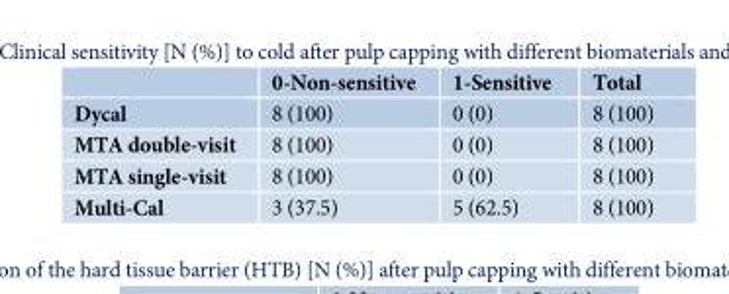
<table><thead><tr><td></td><td>0-Non-sensitive</td><td>1-Sensitive</td><td>Total</td></tr></thead><tbody><tr><td>Dycal</td><td>8 (100)</td><td>0 (0)</td><td>8 (100)</td></tr><tr><td>MTA double-visit</td><td>8 (100)</td><td>0 (0)</td><td>8 (100)</td></tr><tr><td>MTA single-visit</td><td>8 (100)</td><td>0 (0)</td><td>8 (100)</td></tr><tr><td>Multi-Cal</td><td>3 (37.5)</td><td>5 (62.5)</td><td>8 (100)</td></tr></tbody></table>